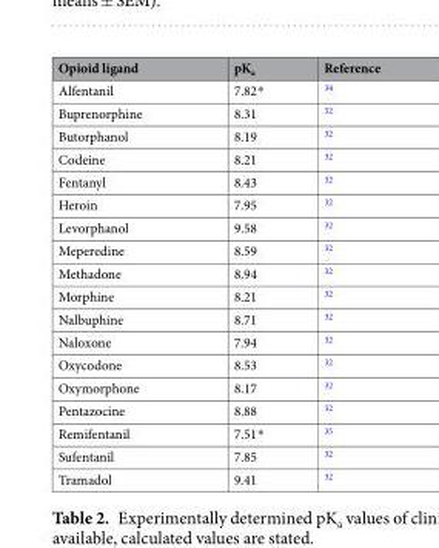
<table><thead><tr><td>Opioid ligand</td><td>pK<sub>a</sub></td><td>Reference</td></tr></thead><tbody><tr><td>Alfentanil</td><td>7.82*</td><td><sup>34</sup></td></tr><tr><td>Buprenorphine</td><td>8.31</td><td><sup>32</sup></td></tr><tr><td>Butorphanol</td><td>8.19</td><td><sup>32</sup></td></tr><tr><td>Codeine</td><td>8.21</td><td><sup>32</sup></td></tr><tr><td>Fentanyl</td><td>8.43</td><td><sup>32</sup></td></tr><tr><td>Heroin</td><td>7.95</td><td><sup>32</sup></td></tr><tr><td>Levorphanol</td><td>9.58</td><td><sup>32</sup></td></tr><tr><td>Meperedine</td><td>8.59</td><td><sup>32</sup></td></tr><tr><td>Methadone</td><td>8.94</td><td><sup>32</sup></td></tr><tr><td>Morphine</td><td>8.21</td><td><sup>32</sup></td></tr><tr><td>Nalbuphine</td><td>8.71</td><td><sup>32</sup></td></tr><tr><td>Naloxone</td><td>7.94</td><td><sup>32</sup></td></tr><tr><td>Oxycodone</td><td>8.53</td><td><sup>32</sup></td></tr><tr><td>Oxymorphone</td><td>8.17</td><td><sup>32</sup></td></tr><tr><td>Pentazocine</td><td>8.88</td><td><sup>32</sup></td></tr><tr><td>Remifentanil</td><td>7.51*</td><td><sup>35</sup></td></tr><tr><td>Sufentanil</td><td>7.85</td><td><sup>32</sup></td></tr><tr><td>Tramadol</td><td>9.41</td><td><sup>32</sup></td></tr></tbody></table>